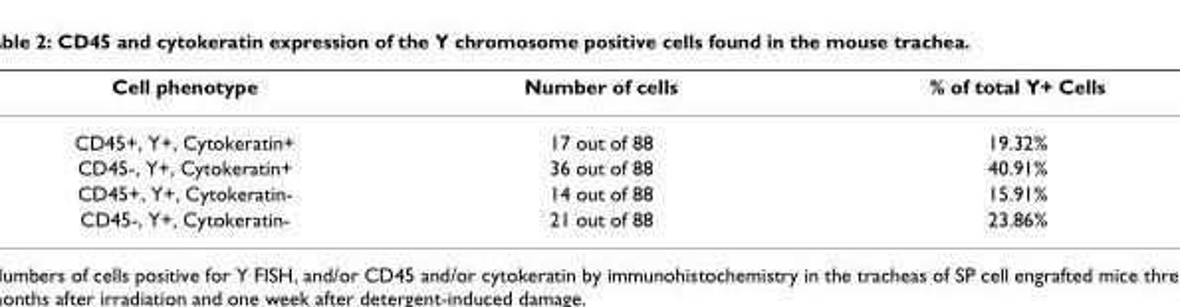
<table><thead><tr><td>Cell phenotype</td><td>Number of cells</td><td>% of total Y+ Cells</td></tr></thead><tbody><tr><td>CD45+, Y+, Cytokeratin+</td><td>17 out of 88</td><td>19.32%</td></tr><tr><td>CD45-, Y+, Cytokeratin+</td><td>36 out of 88</td><td>40.91%</td></tr><tr><td>CD45+, Y+, Cytokeratin-</td><td>14 out of 88</td><td>15.91%</td></tr><tr><td>CD45-, Y+, Cytokeratin-</td><td>21 out of 88</td><td>23.86%</td></tr></tbody></table>